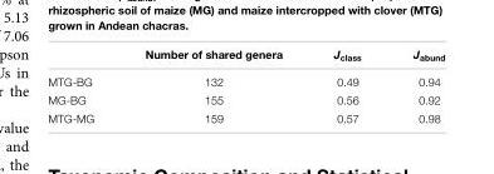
<table><thead><tr><td></td><td>Number of shared genera</td><td>J<sub>class</sub></td><td>J<sub>abund</sub></td></tr></thead><tbody><tr><td>MTG-BG</td><td>132</td><td>0.49</td><td>0.94</td></tr><tr><td>MG-BG</td><td>155</td><td>0.56</td><td>0.92</td></tr><tr><td>MTG-MG</td><td>159</td><td>0.57</td><td>0.98</td></tr></tbody></table>